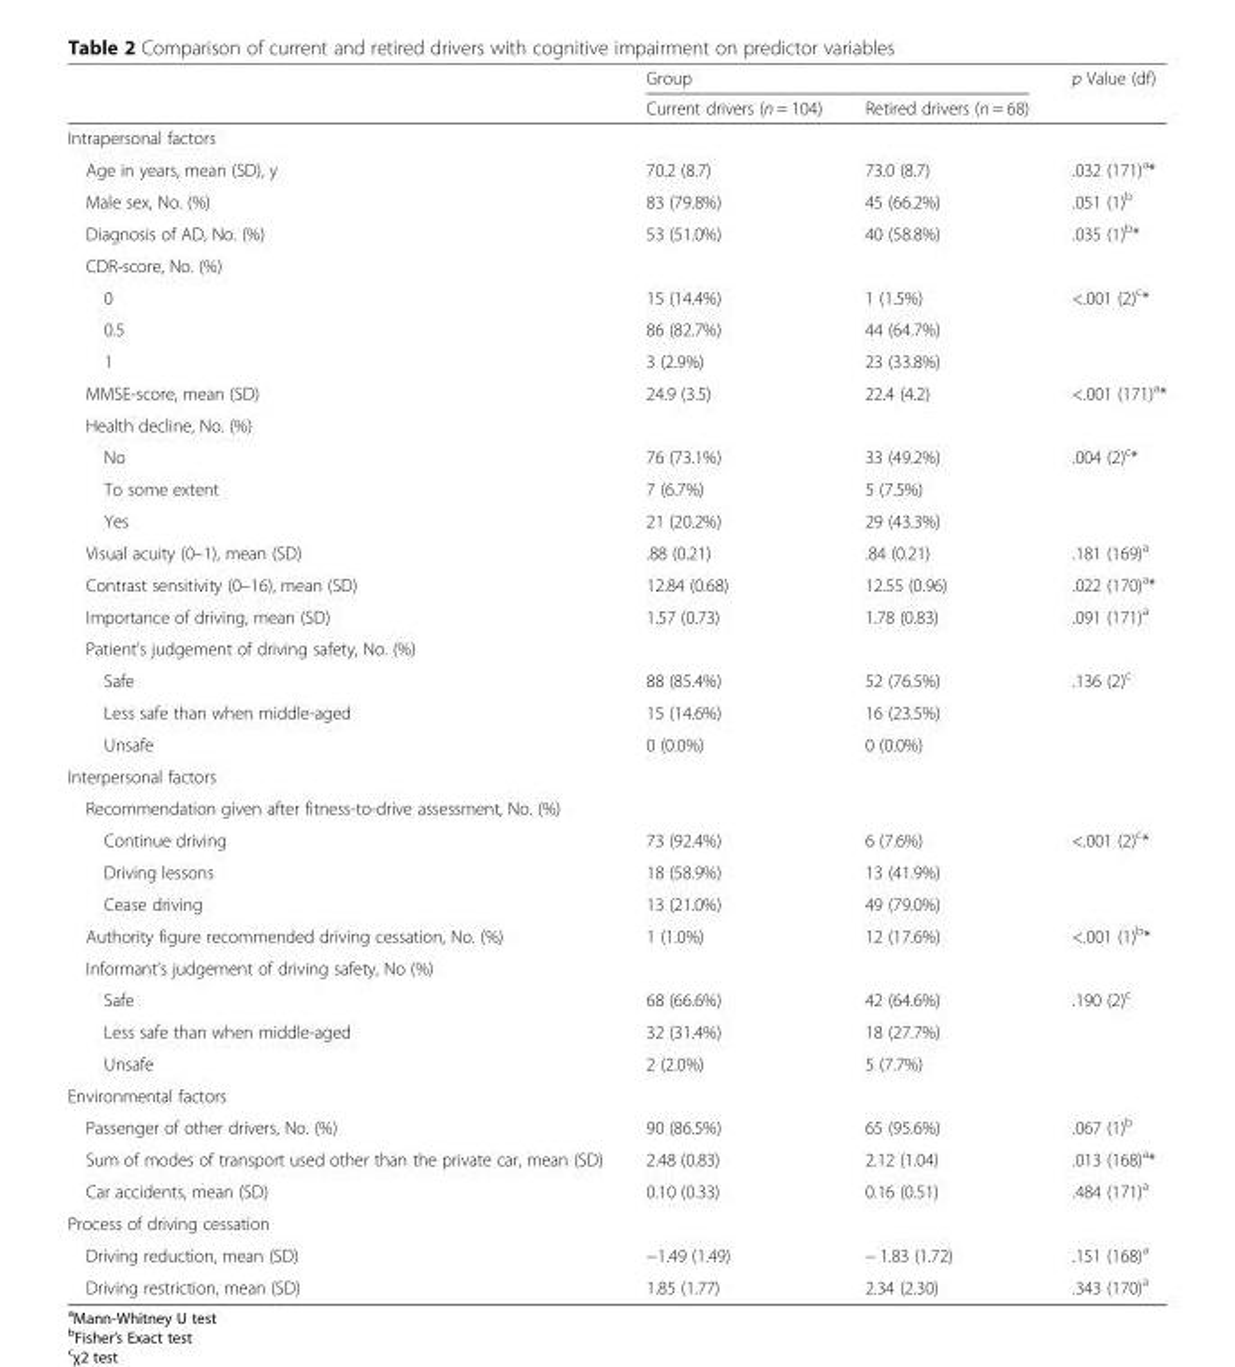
<table><thead><tr><td rowspan="2"></td><td colspan="2">Group</td><td rowspan="2">p Value (df)</td></tr><tr><td>Current drivers (n = 104)</td><td>Retired drivers (n = 68)</td></tr></thead><tbody><tr><td colspan="4">Intrapersonal factors</td></tr><tr><td>Age in years, mean (SD), y</td><td>70.2 (8.7)</td><td>73.0 (8.7)</td><td>.032 (171)<sup>a</sup>*</td></tr><tr><td>Male sex, No. (%)</td><td>83 (79.8%)</td><td>45 (66.2%)</td><td>.051 (1)<sup>b</sup></td></tr><tr><td>Diagnosis of AD, No. (%)</td><td>53 (51.0%)</td><td>40 (58.8%)</td><td>.035 (1)<sup>b</sup>*</td></tr><tr><td colspan="4">CDR-score, No. (%)</td></tr><tr><td>0</td><td>15 (14.4%)</td><td>1 (1.5%)</td><td rowspan="3">&lt;.001 (2)<sup>c</sup>*</td></tr><tr><td>0.5</td><td>86 (82.7%)</td><td>44 (64.7%)</td></tr><tr><td>1</td><td>3 (2.9%)</td><td>23 (33.8%)</td></tr><tr><td>MMSE-score, mean (SD)</td><td>24.9 (3.5)</td><td>22.4 (4.2)</td><td>&lt;.001 (171)<sup>a</sup>*</td></tr><tr><td colspan="4">Health decline, No. (%)</td></tr><tr><td>No</td><td>76 (73.1%)</td><td>33 (49.2%)</td><td rowspan="3">.004 (2)<sup>c</sup>*</td></tr><tr><td>To some extent</td><td>7 (6.7%)</td><td>5 (7.5%)</td></tr><tr><td>Yes</td><td>21 (20.2%)</td><td>29 (43.3%)</td></tr><tr><td>Visual acuity (0–1), mean (SD)</td><td>.88 (0.21)</td><td>.84 (0.21)</td><td>.181 (169)<sup>a</sup></td></tr><tr><td>Contrast sensitivity (0–16), mean (SD)</td><td>12.84 (0.68)</td><td>12.55 (0.96)</td><td>.022 (170)<sup>a</sup>*</td></tr><tr><td>Importance of driving, mean (SD)</td><td>1.57 (0.73)</td><td>1.78 (0.83)</td><td>.091 (171)<sup>a</sup></td></tr><tr><td colspan="4">Patient’s judgement of driving safety, No. (%)</td></tr><tr><td>Safe</td><td>88 (85.4%)</td><td>52 (76.5%)</td><td rowspan="3">.136 (2)<sup>c</sup></td></tr><tr><td>Less safe than when middle-aged</td><td>15 (14.6%)</td><td>16 (23.5%)</td></tr><tr><td>Unsafe</td><td>0 (0.0%)</td><td>0 (0.0%)</td></tr><tr><td colspan="4">Interpersonal factors</td></tr><tr><td colspan="4">Recommendation given after fitness-to-drive assessment, No. (%)</td></tr><tr><td>Continue driving</td><td>73 (92.4%)</td><td>6 (7.6%)</td><td rowspan="3">&lt;.001 (2)<sup>c</sup>*</td></tr><tr><td>Driving lessons</td><td>18 (58.9%)</td><td>13 (41.9%)</td></tr><tr><td>Cease driving</td><td>13 (21.0%)</td><td>49 (79.0%)</td></tr><tr><td>Authority figure recommended driving cessation, No. (%)</td><td>1 (1.0%)</td><td>12 (17.6%)</td><td>&lt;.001 (1)<sup>b</sup>*</td></tr><tr><td colspan="4">Informant’s judgement of driving safety, No (%)</td></tr><tr><td>Safe</td><td>68 (66.6%)</td><td>42 (64.6%)</td><td rowspan="3">.190 (2)<sup>c</sup></td></tr><tr><td>Less safe than when middle-aged</td><td>32 (31.4%)</td><td>18 (27.7%)</td></tr><tr><td>Unsafe</td><td>2 (2.0%)</td><td>5 (7.7%)</td></tr><tr><td colspan="4">Environmental factors</td></tr><tr><td>Passenger of other drivers, No. (%)</td><td>90 (86.5%)</td><td>65 (95.6%)</td><td>.067 (1)<sup>b</sup></td></tr><tr><td>Sum of modes of transport used other than the private car, mean (SD)</td><td>2.48 (0.83)</td><td>2.12 (1.04)</td><td>.013 (168)<sup>a</sup>*</td></tr><tr><td>Car accidents, mean (SD)</td><td>0.10 (0.33)</td><td>0.16 (0.51)</td><td>.484 (171)<sup>a</sup></td></tr><tr><td colspan="4">Process of driving cessation</td></tr><tr><td>Driving reduction, mean (SD)</td><td>−1.49 (1.49)</td><td>− 1.83 (1.72)</td><td>.151 (168)<sup>a</sup></td></tr><tr><td>Driving restriction, mean (SD)</td><td>1.85 (1.77)</td><td>2.34 (2.30)</td><td>.343 (170)<sup>a</sup></td></tr></tbody></table>